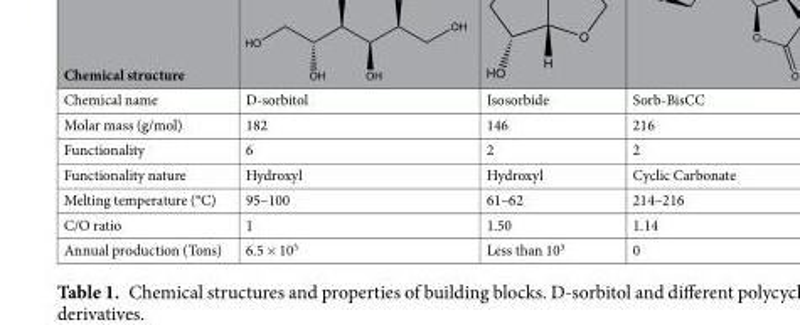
<table><thead><tr><td>Chemical structure</td><td></td><td></td><td></td></tr></thead><tbody><tr><td>Chemical name</td><td>D-sorbitol</td><td>Isosorbide</td><td>Sorb-BisCC</td></tr><tr><td>Molar mass (g/mol)</td><td>182</td><td>146</td><td>216</td></tr><tr><td>Functionality</td><td>6</td><td>2</td><td>2</td></tr><tr><td>Functionality nature</td><td>Hydroxyl</td><td>Hydroxyl</td><td>Cyclic Carbonate</td></tr><tr><td>Melting temperature (°C)</td><td>95–100</td><td>61–62</td><td>214–216</td></tr><tr><td>C/O ratio</td><td>1</td><td>1.50</td><td>1.14</td></tr><tr><td>Annual production (Tons)</td><td>6.5 × 10<sup>5</sup></td><td>Less than 10<sup>3</sup></td><td>0</td></tr></tbody></table>